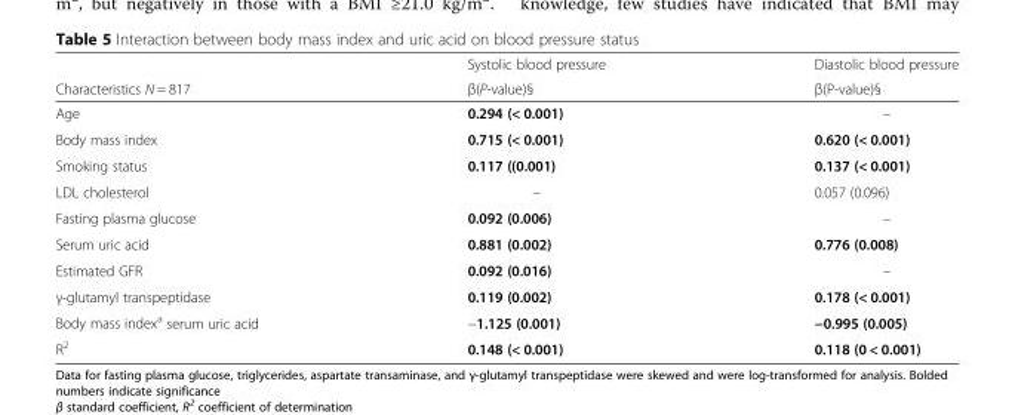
<table><thead><tr><td rowspan="2">Characteristics N = 817</td><td rowspan="2">Systolic blood pressure β(P-value)§</td><td rowspan="2">Diastolic blood pressure β(P-value)§</td></tr><tr></tr></thead><tbody><tr><td>Age</td><td>0.294 (&lt; 0.001)</td><td>–</td></tr><tr><td>Body mass index</td><td>0.715 (&lt; 0.001)</td><td>0.620 (&lt; 0.001)</td></tr><tr><td>Smoking status</td><td>0.117 ((0.001)</td><td>0.137 (&lt; 0.001)</td></tr><tr><td>LDL cholesterol</td><td>–</td><td>0.057 (0.096)</td></tr><tr><td>Fasting plasma glucose</td><td>0.092 (0.006)</td><td>–</td></tr><tr><td>Serum uric acid</td><td>0.881 (0.002)</td><td>0.776 (0.008)</td></tr><tr><td>Estimated GFR</td><td>0.092 (0.016)</td><td>–</td></tr><tr><td>γ-glutamyl transpeptidase</td><td>0.119 (0.002)</td><td>0.178 (&lt; 0.001)</td></tr><tr><td>Body mass index<sup>a</sup> serum uric acid</td><td>−1.125 (0.001)</td><td>−0.995 (0.005)</td></tr><tr><td>R<sup>2</sup></td><td>0.148 (&lt; 0.001)</td><td>0.118 (0 &lt; 0.001)</td></tr></tbody></table>